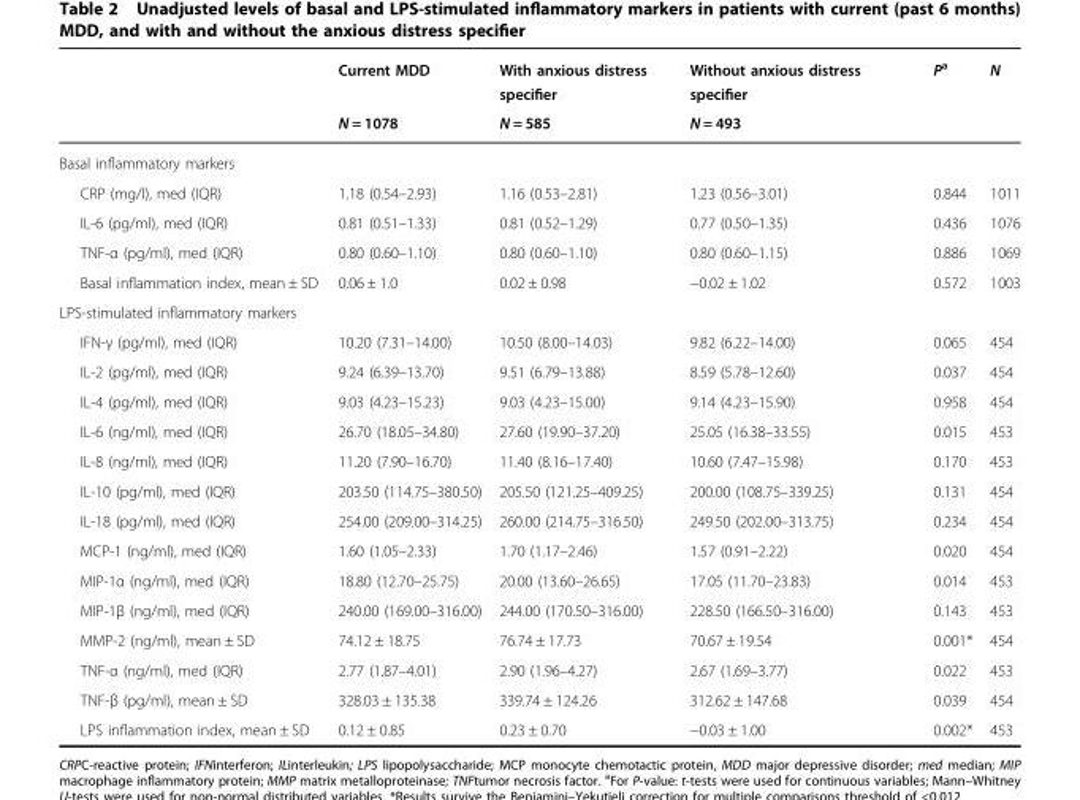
<table><thead><tr><td rowspan="2"></td><td rowspan="2">Current MDD N = 1078</td><td rowspan="2">With anxious distress specifier N = 585</td><td rowspan="2">Without anxious distress specifier N = 493</td><td rowspan="2">P<sup>a</sup></td><td rowspan="2">N</td></tr><tr></tr></thead><tbody><tr><td colspan="6">Basal inflammatory markers</td></tr><tr><td>CRP (mg/l), med (IQR)</td><td>1.18 (0.54–2.93)</td><td>1.16 (0.53–2.81)</td><td>1.23 (0.56–3.01)</td><td>0.844</td><td>1011</td></tr><tr><td>IL-6 (pg/ml), med (IQR)</td><td>0.81 (0.51–1.33)</td><td>0.81 (0.52–1.29)</td><td>0.77 (0.50–1.35)</td><td>0.436</td><td>1076</td></tr><tr><td>TNF-α (pg/ml), med (IQR)</td><td>0.80 (0.60–1.10)</td><td>0.80 (0.60–1.10)</td><td>0.80 (0.60–1.15)</td><td>0.886</td><td>1069</td></tr><tr><td>Basal inflammation index, mean ± SD</td><td>0.06 ± 1.0</td><td>0.02 ± 0.98</td><td>−0.02 ± 1.02</td><td>0.572</td><td>1003</td></tr><tr><td colspan="6">LPS-stimulated inflammatory markers</td></tr><tr><td>IFN-γ (pg/ml), med (IQR)</td><td>10.20 (7.31–14.00)</td><td>10.50 (8.00–14.03)</td><td>9.82 (6.22–14.00)</td><td>0.065</td><td>454</td></tr><tr><td>IL-2 (pg/ml), med (IQR)</td><td>9.24 (6.39–13.70)</td><td>9.51 (6.79–13.88)</td><td>8.59 (5.78–12.60)</td><td>0.037</td><td>454</td></tr><tr><td>IL-4 (pg/ml), med (IQR)</td><td>9.03 (4.23–15.23)</td><td>9.03 (4.23–15.00)</td><td>9.14 (4.23–15.90)</td><td>0.958</td><td>454</td></tr><tr><td>IL-6 (ng/ml), med (IQR)</td><td>26.70 (18.05–34.80)</td><td>27.60 (19.90–37.20)</td><td>25.05 (16.38–33.55)</td><td>0.015</td><td>453</td></tr><tr><td>IL-8 (ng/ml), med (IQR)</td><td>11.20 (7.90–16.70)</td><td>11.40 (8.16–17.40)</td><td>10.60 (7.47–15.98)</td><td>0.170</td><td>453</td></tr><tr><td>IL-10 (pg/ml), med (IQR)</td><td>203.50 (114.75–380.50)</td><td>205.50 (121.25–409.25)</td><td>200.00 (108.75–339.25)</td><td>0.131</td><td>454</td></tr><tr><td>IL-18 (pg/ml), med (IQR)</td><td>254.00 (209.00–314.25)</td><td>260.00 (214.75–316.50)</td><td>249.50 (202.00–313.75)</td><td>0.234</td><td>454</td></tr><tr><td>MCP-1 (ng/ml), med (IQR)</td><td>1.60 (1.05–2.33)</td><td>1.70 (1.17–2.46)</td><td>1.57 (0.91–2.22)</td><td>0.020</td><td>454</td></tr><tr><td>MIP-1α (ng/ml), med (IQR)</td><td>18.80 (12.70–25.75)</td><td>20.00 (13.60–26.65)</td><td>17.05 (11.70–23.83)</td><td>0.014</td><td>453</td></tr><tr><td>MIP-1β (ng/ml), med (IQR)</td><td>240.00 (169.00–316.00)</td><td>244.00 (170.50–316.00)</td><td>228.50 (166.50–316.00)</td><td>0.143</td><td>453</td></tr><tr><td>MMP-2 (ng/ml), mean ± SD</td><td>74.12 ± 18.75</td><td>76.74 ± 17.73</td><td>70.67 ± 19.54</td><td>0.001*</td><td>454</td></tr><tr><td>TNF-α (ng/ml), med (IQR)</td><td>2.77 (1.87–4.01)</td><td>2.90 (1.96–4.27)</td><td>2.67 (1.69–3.77)</td><td>0.022</td><td>453</td></tr><tr><td>TNF-β (pg/ml), mean ± SD</td><td>328.03 ± 135.38</td><td>339.74 ± 124.26</td><td>312.62 ± 147.68</td><td>0.039</td><td>454</td></tr><tr><td>LPS inflammation index, mean ± SD</td><td>0.12 ± 0.85</td><td>0.23 ± 0.70</td><td>−0.03 ± 1.00</td><td>0.002*</td><td>453</td></tr></tbody></table>